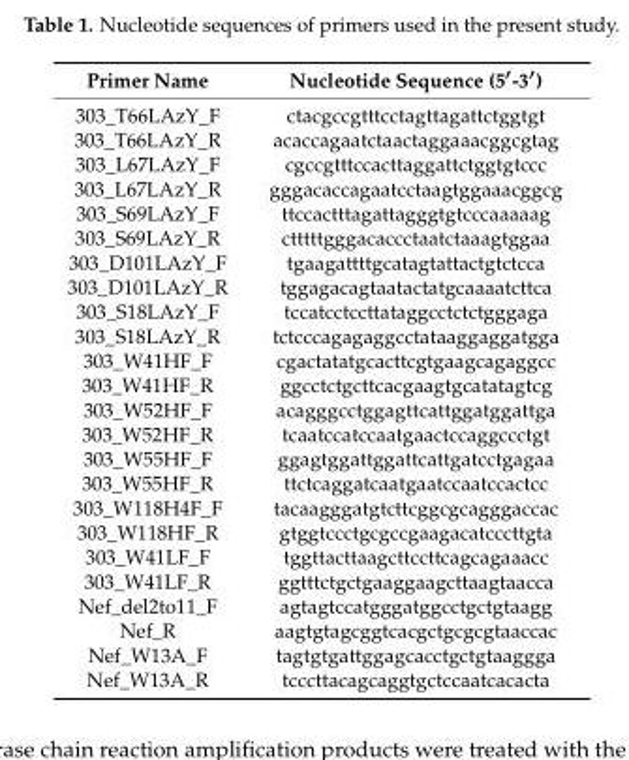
<table><thead><tr><td>Primer Name</td><td>Nucleotide Sequence (5′-3′)</td></tr></thead><tbody><tr><td>303_T66LAzY_F</td><td>ctacgccgtttcctagttagattctggtgt</td></tr><tr><td>303_T66LAzY_R</td><td>acaccagaatctaactaggaaacggcgtag</td></tr><tr><td>303_L67LAzY_F</td><td>cgccgtttccacttaggattctggtgtccc</td></tr><tr><td>303_L67LAzY_R</td><td>gggacaccagaatcctaagtggaaacggcg</td></tr><tr><td>303_S69LAzY_F</td><td>ttccactttagattagggtgtcccaaaaag</td></tr><tr><td>303_S69LAzY_R</td><td>ctttttgggacaccctaatctaaagtggaa</td></tr><tr><td>303_D101LAzY_F</td><td>tgaagattttgcatagtattactgtctcca</td></tr><tr><td>303_D101LAzY_R</td><td>tggagacagtaatactatgcaaaatcttca</td></tr><tr><td>303_S18LAzY_F</td><td>tccatcctccttataggcctctctgggaga</td></tr><tr><td>303_S18LAzY_R</td><td>tctcccagagaggcctataaggaggatgga</td></tr><tr><td>303_W41HF_F</td><td>cgactatatgcacttcgtgaagcagaggcc</td></tr><tr><td>303_W41HF_R</td><td>ggcctctgcttcacgaagtgcatatagtcg</td></tr><tr><td>303_W52HF_F</td><td>acagggcctggagttcattggatggattga</td></tr><tr><td>303_W52HF_R</td><td>tcaatccatccaatgaactccaggccctgt</td></tr><tr><td>303_W55HF_F</td><td>ggagtggattggattcattgatcctgagaa</td></tr><tr><td>303_W55HF_R</td><td>ttctcaggatcaatgaatccaatccactcc</td></tr><tr><td>303_W118H4F_F</td><td>tacaagggatgtcttcggcgcagggaccac</td></tr><tr><td>303_W118HF_R</td><td>gtggtccctgcgccgaagacatcccttgta</td></tr><tr><td>303_W41LF_F</td><td>tggttacttaagcttccttcagcagaaacc</td></tr><tr><td>303_W41LF_R</td><td>ggtttctgctgaaggaagcttaagtaacca</td></tr><tr><td>Nef_del2to11_F</td><td>agtagtccatgggatggcctgctgtaagg</td></tr><tr><td>Nef_R</td><td>aagtgtagcggtcacgctgcgcgtaaccac</td></tr><tr><td>Nef_W13A_F</td><td>tagtgtgattggagcacctgctgtaaggga</td></tr><tr><td>Nef_W13A_R</td><td>tcccttacagcaggtgctccaatcacacta</td></tr></tbody></table>